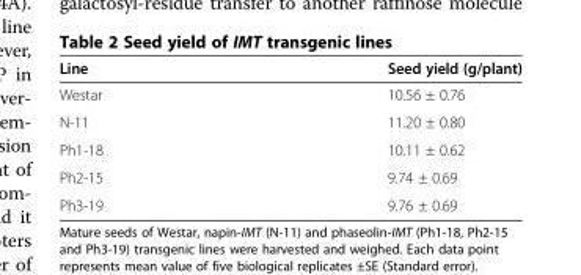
<table><thead><tr><td>Line</td><td>Seed yield (g/plant)</td></tr></thead><tbody><tr><td>Westar</td><td>10.56 ± 0.76</td></tr><tr><td>N-11</td><td>11.20 ± 0.80</td></tr><tr><td>Ph1-18</td><td>10.11 ± 0.62</td></tr><tr><td>Ph2-15</td><td>9.74 ± 0.69</td></tr><tr><td>Ph3-19</td><td>9.76 ± 0.69</td></tr></tbody></table>